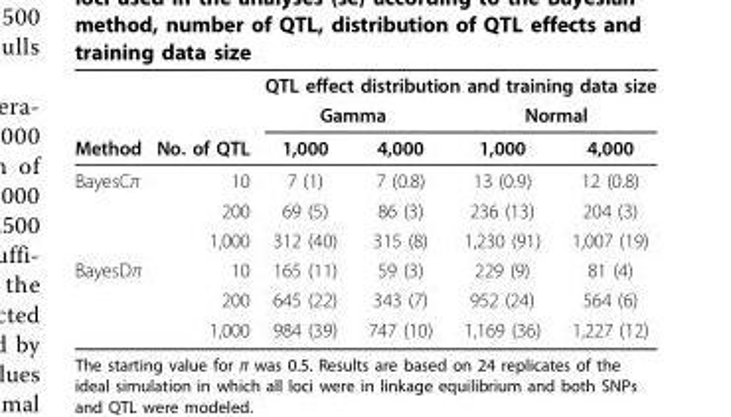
<table><thead><tr><td rowspan="3">Method</td><td rowspan="3">No. of QTL</td><td colspan="4">QTL effect distribution and training data size</td></tr><tr><td colspan="2">Gamma</td><td colspan="2">Normal</td></tr><tr><td>1,000</td><td>4,000</td><td>1,000</td><td>4,000</td></tr></thead><tbody><tr><td rowspan="3">BayesCπ</td><td>10</td><td>7 (1)</td><td>7 (0.8)</td><td>13 (0.9)</td><td>12 (0.8)</td></tr><tr><td>200</td><td>69 (5)</td><td>86 (3)</td><td>236 (13)</td><td>204 (3)</td></tr><tr><td>1,000</td><td>312 (40)</td><td>315 (8)</td><td>1,230 (91)</td><td>1,007 (19)</td></tr><tr><td rowspan="3">BayesDπ</td><td>10</td><td>165 (11)</td><td>59 (3)</td><td>229 (9)</td><td>81 (4)</td></tr><tr><td>200</td><td>645 (22)</td><td>343 (7)</td><td>952 (24)</td><td>564 (6)</td></tr><tr><td>1,000</td><td>984 (39)</td><td>747 (10)</td><td>1,169 (36)</td><td>1,227 (12)</td></tr></tbody></table>